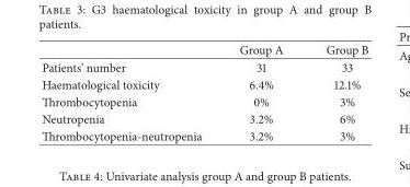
<table><thead><tr><td></td><td>Group A</td><td>Group B</td></tr></thead><tbody><tr><td>Patients’ number</td><td>31</td><td>33</td></tr><tr><td>Haematological toxicity</td><td>6.4%</td><td>12.1%</td></tr><tr><td>Thrombocytopenia</td><td>0%</td><td>3%</td></tr><tr><td>Neutropenia</td><td>3.2%</td><td>6%</td></tr><tr><td>Thrombocytopenia-neutropenia</td><td>3.2%</td><td>3%</td></tr></tbody></table>